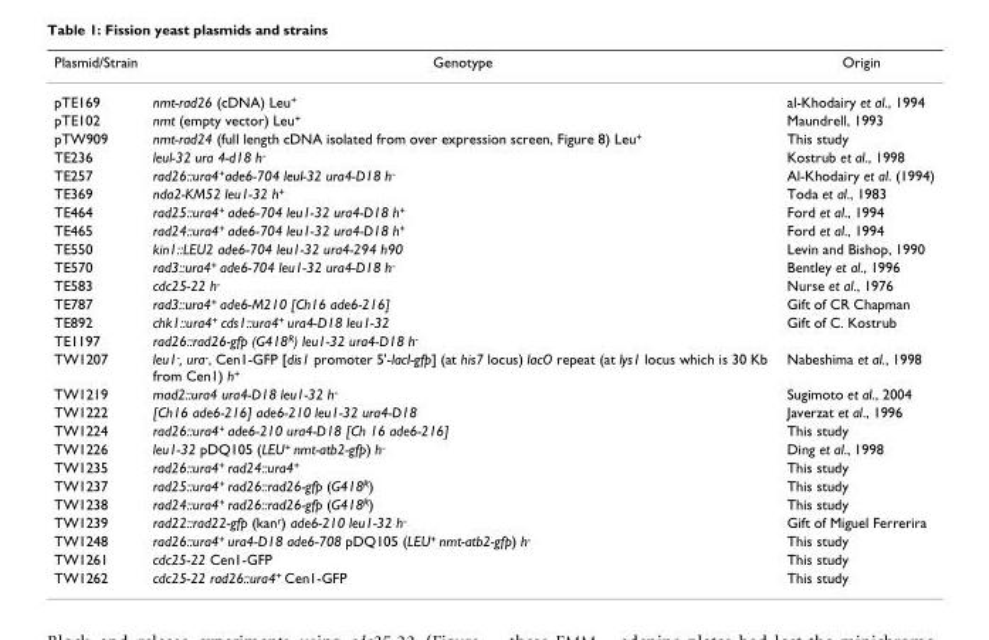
<table><thead><tr><td>Plasmid/Strain</td><td>Genotype</td><td>Origin</td></tr></thead><tbody><tr><td>pTE169</td><td>nmt-rad26 (cDNA) Leu<sup>+</sup></td><td>al-Khodairy et al., 1994</td></tr><tr><td>pTE102</td><td>nmt (empty vector) Leu<sup>+</sup></td><td>Maundrell, 1993</td></tr><tr><td>pTW909</td><td>nmt-rad24 (full length cDNA isolated from over expression screen, Figure 8) Leu<sup>+</sup></td><td>This study</td></tr><tr><td>TE236</td><td>leul-32 ura 4-d18 h<sup>-</sup></td><td>Kostrub et al., 1998</td></tr><tr><td>TE257</td><td>rad26::ura4<sup>+</sup>ade6-704 leul-32 ura4-D18 h<sup>-</sup></td><td>Al-Khodairy et al. (1994)</td></tr><tr><td>TE369</td><td>nda2-KM52 leu1-32 h<sup>+</sup></td><td>Toda et al., 1983</td></tr><tr><td>TE464</td><td>rad25::ura4<sup>+</sup> ade6-704 leu1-32 ura4-D18 h<sup>+</sup></td><td>Ford et al., 1994</td></tr><tr><td>TE465</td><td>rad24::ura4<sup>+</sup> ade6-704 leu1-32 ura4-D18 h<sup>+</sup></td><td>Ford et al., 1994</td></tr><tr><td>TE550</td><td>kin1::LEU2 ade6-704 leu1-32 ura4-294 h90</td><td>Levin and Bishop, 1990</td></tr><tr><td>TE570</td><td>rad3::ura4<sup>+</sup> ade6-704 leu1-32 ura4-D18 h<sup>-</sup></td><td>Bentley et al., 1996</td></tr><tr><td>TE583</td><td>cdc25-22 h<sup>-</sup></td><td>Nurse et al., 1976</td></tr><tr><td>TE787</td><td>rad3::ura4<sup>+</sup> ade6-M210 [Ch16 ade6-216]</td><td>Gift of CR Chapman</td></tr><tr><td>TE892</td><td>chk1::ura4<sup>+</sup> cds1::ura4<sup>+</sup> ura4-D18 leu1-32</td><td>Gift of C. Kostrub</td></tr><tr><td>TE1197</td><td>rad26::rad26-gfp (G418<sup>R</sup>) leu1-32 ura4-D18 h<sup>-</sup></td><td></td></tr><tr><td>TW1207</td><td>leu1<sup>-</sup>, ura<sup>-</sup>, Cen1-GFP [dis1 promoter 5&#x27;-lacI-gfp] (at his7 locus) lacO repeat (at lys1 locus which is 30 Kb from Cen1) h<sup>+</sup></td><td>Nabeshima et al., 1998</td></tr><tr><td>TW1219</td><td>mad2::ura4 ura4-D18 leu1-32 h<sup>-</sup></td><td>Sugimoto et al., 2004</td></tr><tr><td>TW1222</td><td>[Ch16 ade6-216] ade6-210 leu1-32 ura4-D18</td><td>Javerzat et al., 1996</td></tr><tr><td>TW1224</td><td>rad26::ura4<sup>+</sup> ade6-210 ura4-D18 [Ch 16 ade6-216]</td><td>This study</td></tr><tr><td>TW1226</td><td>leu1-32 pDQ105 (LEU<sup>+</sup> nmt-atb2-gfp) h<sup>-</sup></td><td>Ding et al., 1998</td></tr><tr><td>TW1235</td><td>rad26::ura4<sup>+</sup> rad24::ura4<sup>+</sup></td><td>This study</td></tr><tr><td>TW1237</td><td>rad25::ura4<sup>+</sup> rad26::rad26-gfp (G418<sup>R</sup>)</td><td>This study</td></tr><tr><td>TW1238</td><td>rad24::ura4<sup>+</sup> rad26::rad26-gfp (G418<sup>R</sup>)</td><td>This study</td></tr><tr><td>TW1239</td><td>rad22::rad22-gfp (kan<sup>r</sup>) ade6-210 leu1-32 h<sup>-</sup></td><td>Gift of Miguel Ferrerira</td></tr><tr><td>TW1248</td><td>rad26::ura4<sup>+</sup> ura4-D18 ade6-708 pDQ105 (LEU<sup>+</sup> nmt-atb2-gfp) h<sup>-</sup></td><td>This study</td></tr><tr><td>TW1261</td><td>cdc25-22 Cen1-GFP</td><td>This study</td></tr><tr><td>TW1262</td><td>cdc25-22 rad26::ura4<sup>+</sup> Cen1-GFP</td><td>This study</td></tr></tbody></table>